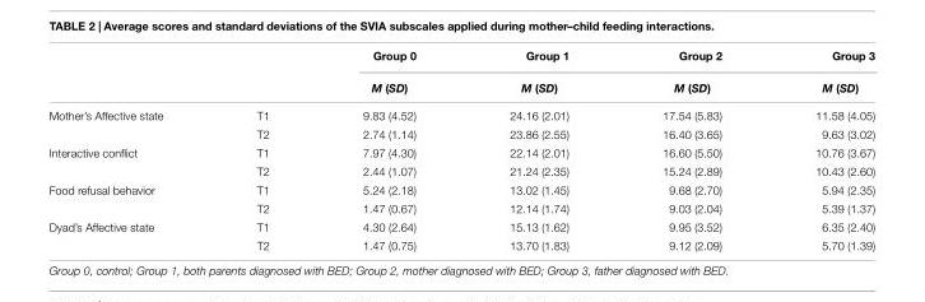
<table><thead><tr><td rowspan="2"></td><td rowspan="2"></td><td rowspan="2">Group 0 M (SD)</td><td rowspan="2">Group 1 M (SD)</td><td rowspan="2">Group 2 M (SD)</td><td rowspan="2">Group 3 M (SD)</td></tr><tr></tr></thead><tbody><tr><td rowspan="2">Mother’s Affective state</td><td>T1</td><td>9.83 (4.52)</td><td>24.16 (2.01)</td><td>17.54 (5.83)</td><td>11.58 (4.05)</td></tr><tr><td>T2</td><td>2.74 (1.14)</td><td>23.86 (2.55)</td><td>16.40 (3.65)</td><td>9.63 (3.02)</td></tr><tr><td rowspan="2">Interactive conflict</td><td>T1</td><td>7.97 (4.30)</td><td>22.14 (2.01)</td><td>16.60 (5.50)</td><td>10.76 (3.67)</td></tr><tr><td>T2</td><td>2.44 (1.07)</td><td>21.24 (2.35)</td><td>15.24 (2.89)</td><td>10.43 (2.60)</td></tr><tr><td rowspan="2">Food refusal behavior</td><td>T1</td><td>5.24 (2.18)</td><td>13.02 (1.45)</td><td>9.68 (2.70)</td><td>5.94 (2.35)</td></tr><tr><td>T2</td><td>1.47 (0.67)</td><td>12.14 (1.74)</td><td>9.03 (2.04)</td><td>5.39 (1.37)</td></tr><tr><td rowspan="2">Dyad’s Affective state</td><td>T1</td><td>4.30 (2.64)</td><td>15.13 (1.62)</td><td>9.95 (3.52)</td><td>6.35 (2.40)</td></tr><tr><td>T2</td><td>1.47 (0.75)</td><td>13.70 (1.83)</td><td>9.12 (2.09)</td><td>5.70 (1.39)</td></tr></tbody></table>